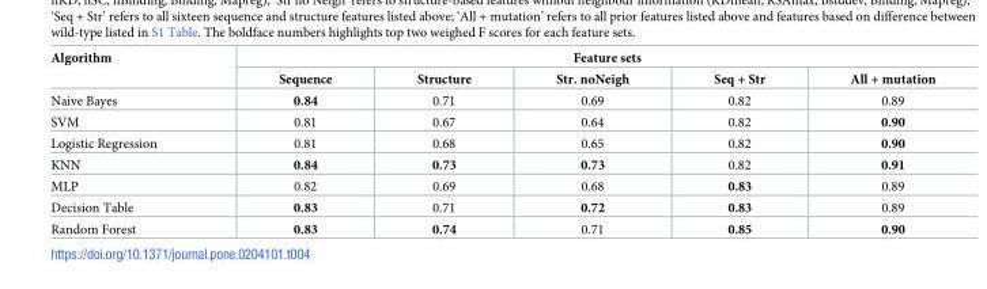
<table><thead><tr><td rowspan="2">Algorithm</td><td colspan="5">Feature sets</td></tr><tr><td>Sequence</td><td>Structure</td><td>Str. noNeigh</td><td>Seq + Str</td><td>All + mutation</td></tr></thead><tbody><tr><td>Naive Bayes</td><td>0.84</td><td>0.71</td><td>0.69</td><td>0.82</td><td>0.89</td></tr><tr><td>SVM</td><td>0.81</td><td>0.67</td><td>0.64</td><td>0.82</td><td>0.90</td></tr><tr><td>Logistic Regression</td><td>0.81</td><td>0.68</td><td>0.65</td><td>0.82</td><td>0.90</td></tr><tr><td>KNN</td><td>0.84</td><td>0.73</td><td>0.73</td><td>0.82</td><td>0.91</td></tr><tr><td>MLP</td><td>0.82</td><td>0.69</td><td>0.68</td><td>0.83</td><td>0.89</td></tr><tr><td>Decision Table</td><td>0.83</td><td>0.71</td><td>0.72</td><td>0.83</td><td>0.89</td></tr><tr><td>Random Forest</td><td>0.83</td><td>0.74</td><td>0.71</td><td>0.85</td><td>0.90</td></tr></tbody></table>